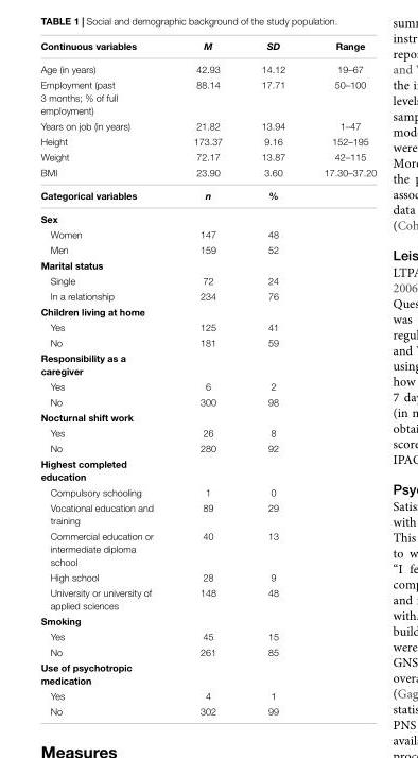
<table><thead><tr><td>Continuous variables</td><td>M</td><td>SD</td><td>Range</td></tr></thead><tbody><tr><td>Age (in years)</td><td>42.93</td><td>14.12</td><td>19–67</td></tr><tr><td>Employment (past 3 months; % of full employment)</td><td>88.14</td><td>17.71</td><td>50–100</td></tr><tr><td>Years on job (in years)</td><td>21.82</td><td>13.94</td><td>1–47</td></tr><tr><td>Height</td><td>173.37</td><td>9.16</td><td>152–195</td></tr><tr><td>Weight</td><td>72.17</td><td>13.87</td><td>42–115</td></tr><tr><td>BMI</td><td>23.90</td><td>3.60</td><td>17.30–37.20</td></tr><tr><td>Categorical variables</td><td>n</td><td>%</td><td></td></tr><tr><td colspan="4">Sex</td></tr><tr><td>Women</td><td>147</td><td>48</td><td></td></tr><tr><td>Men</td><td>159</td><td>52</td><td></td></tr><tr><td colspan="4">Marital status</td></tr><tr><td>Single</td><td>72</td><td>24</td><td></td></tr><tr><td>In a relationship</td><td>234</td><td>76</td><td></td></tr><tr><td colspan="4">Children living at home</td></tr><tr><td>Yes</td><td>125</td><td>41</td><td></td></tr><tr><td>No</td><td>181</td><td>59</td><td></td></tr><tr><td colspan="4">Responsibility as a caregiver</td></tr><tr><td>Yes</td><td>6</td><td>2</td><td></td></tr><tr><td>No</td><td>300</td><td>98</td><td></td></tr><tr><td colspan="4">Nocturnal shift work</td></tr><tr><td>Yes</td><td>26</td><td>8</td><td></td></tr><tr><td>No</td><td>280</td><td>92</td><td></td></tr><tr><td colspan="4">Highest completed education</td></tr><tr><td>Compulsory schooling</td><td>1</td><td>0</td><td></td></tr><tr><td>Vocational education and training</td><td>89</td><td>29</td><td></td></tr><tr><td>Commercial education or intermediate diploma school</td><td>40</td><td>13</td><td></td></tr><tr><td>High school</td><td>28</td><td>9</td><td></td></tr><tr><td>University or university of applied sciences</td><td>148</td><td>48</td><td></td></tr><tr><td colspan="4">Smoking</td></tr><tr><td>Yes</td><td>45</td><td>15</td><td></td></tr><tr><td>No</td><td>261</td><td>85</td><td></td></tr><tr><td colspan="4">Use of psychotropic medication</td></tr><tr><td>Yes</td><td>4</td><td>1</td><td></td></tr><tr><td>No</td><td>302</td><td>99</td><td></td></tr></tbody></table>